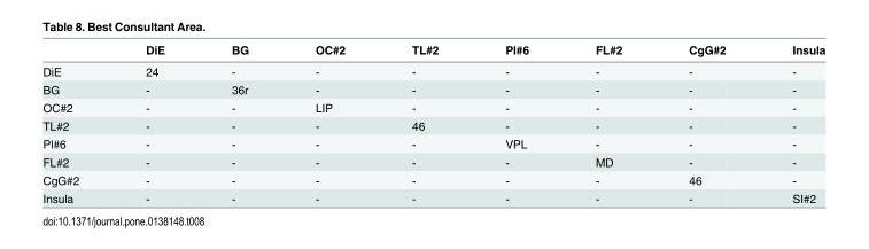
<table><thead><tr><td></td><td>DiE</td><td>BG</td><td>OC#2</td><td>TL#2</td><td>Pl#6</td><td>FL#2</td><td>CgG#2</td><td>Insula</td></tr></thead><tbody><tr><td>DiE</td><td>24</td><td>-</td><td>-</td><td>-</td><td>-</td><td>-</td><td>-</td><td>-</td></tr><tr><td>BG</td><td>-</td><td>36r</td><td>-</td><td>-</td><td>-</td><td>-</td><td>-</td><td>-</td></tr><tr><td>OC#2</td><td>-</td><td>-</td><td>LIP</td><td>-</td><td>-</td><td>-</td><td>-</td><td>-</td></tr><tr><td>TL#2</td><td>-</td><td>-</td><td>-</td><td>46</td><td>-</td><td>-</td><td>-</td><td>-</td></tr><tr><td>Pl#6</td><td>-</td><td>-</td><td>-</td><td>-</td><td>VPL</td><td>-</td><td>-</td><td>-</td></tr><tr><td>FL#2</td><td>-</td><td>-</td><td>-</td><td>-</td><td>-</td><td>MD</td><td>-</td><td>-</td></tr><tr><td>CgG#2</td><td>-</td><td>-</td><td>-</td><td>-</td><td>-</td><td>-</td><td>46</td><td>-</td></tr><tr><td>Insula</td><td>-</td><td>-</td><td>-</td><td>-</td><td>-</td><td>-</td><td>-</td><td>SI#2</td></tr></tbody></table>